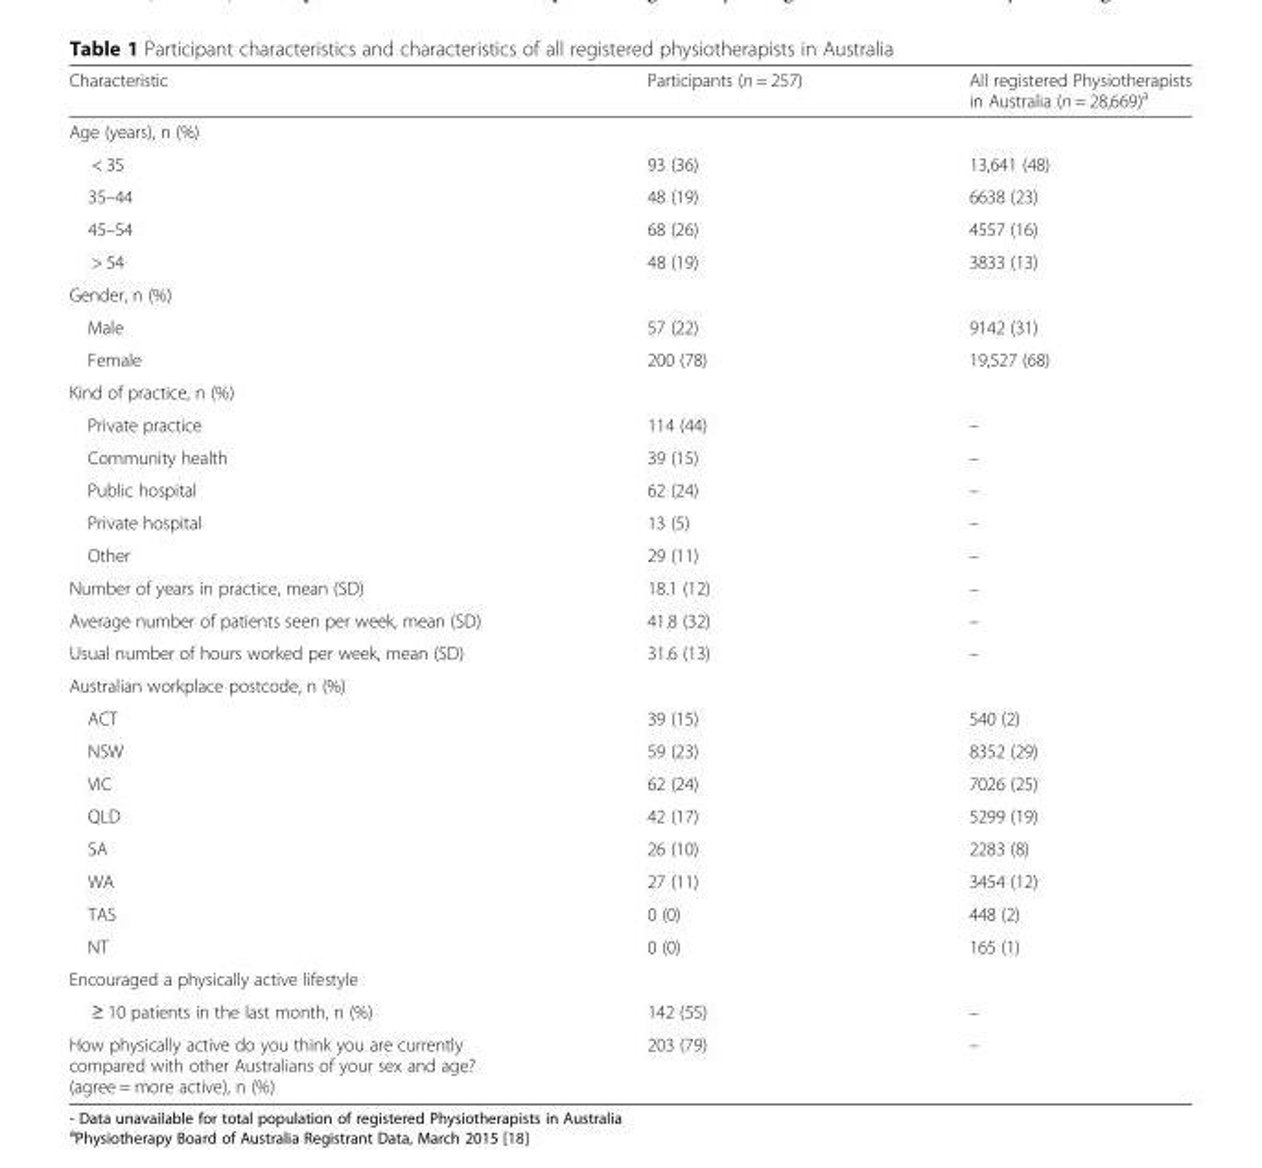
<table><thead><tr><td>Characteristic</td><td>Participants (n = 257)</td><td>All registered Physiotherapists in Australia (n = 28,669)<sup>a</sup></td></tr></thead><tbody><tr><td colspan="3">Age (years), n (%)</td></tr><tr><td>&lt; 35</td><td>93 (36)</td><td>13,641 (48)</td></tr><tr><td>35–44</td><td>48 (19)</td><td>6638 (23)</td></tr><tr><td>45–54</td><td>68 (26)</td><td>4557 (16)</td></tr><tr><td>&gt; 54</td><td>48 (19)</td><td>3833 (13)</td></tr><tr><td colspan="3">Gender, n (%)</td></tr><tr><td>Male</td><td>57 (22)</td><td>9142 (31)</td></tr><tr><td>Female</td><td>200 (78)</td><td>19,527 (68)</td></tr><tr><td colspan="3">Kind of practice, n (%)</td></tr><tr><td>Private practice</td><td>114 (44)</td><td>–</td></tr><tr><td>Community health</td><td>39 (15)</td><td>–</td></tr><tr><td>Public hospital</td><td>62 (24)</td><td>–</td></tr><tr><td>Private hospital</td><td>13 (5)</td><td>–</td></tr><tr><td>Other</td><td>29 (11)</td><td>–</td></tr><tr><td>Number of years in practice, mean (SD)</td><td>18.1 (12)</td><td>–</td></tr><tr><td>Average number of patients seen per week, mean (SD)</td><td>41.8 (32)</td><td>–</td></tr><tr><td>Usual number of hours worked per week, mean (SD)</td><td>31.6 (13)</td><td>–</td></tr><tr><td colspan="3">Australian workplace postcode, n (%)</td></tr><tr><td>ACT</td><td>39 (15)</td><td>540 (2)</td></tr><tr><td>NSW</td><td>59 (23)</td><td>8352 (29)</td></tr><tr><td>VIC</td><td>62 (24)</td><td>7026 (25)</td></tr><tr><td>QLD</td><td>42 (17)</td><td>5299 (19)</td></tr><tr><td>SA</td><td>26 (10)</td><td>2283 (8)</td></tr><tr><td>WA</td><td>27 (11)</td><td>3454 (12)</td></tr><tr><td>TAS</td><td>0 (0)</td><td>448 (2)</td></tr><tr><td>NT</td><td>0 (0)</td><td>165 (1)</td></tr><tr><td colspan="3">Encouraged a physically active lifestyle</td></tr><tr><td>≥ 10 patients in the last month, n (%)</td><td>142 (55)</td><td>–</td></tr><tr><td>How physically active do you think you are currently compared with other Australians of your sex and age? (agree = more active), n (%)</td><td>203 (79)</td><td>–</td></tr></tbody></table>